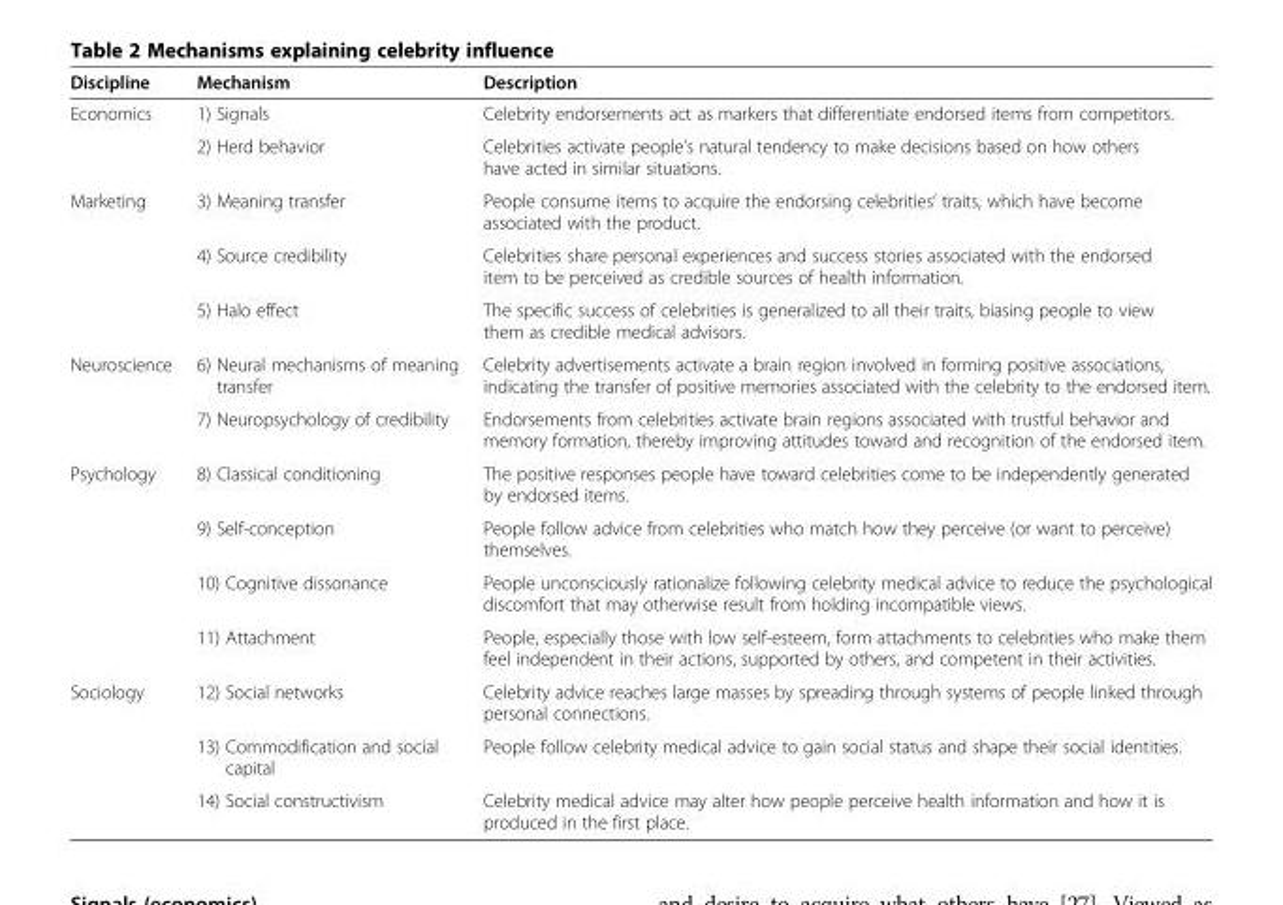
<table><thead><tr><td>Discipline</td><td>Mechanism</td><td>Description</td></tr></thead><tbody><tr><td rowspan="2">Economics</td><td>1) Signals</td><td>Celebrity endorsements act as markers that differentiate endorsed items from competitors.</td></tr><tr><td>2) Herd behavior</td><td>Celebrities activate people’s natural tendency to make decisions based on how others have acted in similar situations.</td></tr><tr><td rowspan="3">Marketing</td><td>3) Meaning transfer</td><td>People consume items to acquire the endorsing celebrities’ traits, which have become associated with the product.</td></tr><tr><td>4) Source credibility</td><td>Celebrities share personal experiences and success stories associated with the endorsed item to be perceived as credible sources of health information.</td></tr><tr><td>5) Halo effect</td><td>The specific success of celebrities is generalized to all their traits, biasing people to view them as credible medical advisors.</td></tr><tr><td rowspan="2">Neuroscience</td><td>6) Neural mechanisms of meaning transfer</td><td>Celebrity advertisements activate a brain region involved in forming positive associations, indicating the transfer of positive memories associated with the celebrity to the endorsed item.</td></tr><tr><td>7) Neuropsychology of credibility</td><td>Endorsements from celebrities activate brain regions associated with trustful behavior and memory formation, thereby improving attitudes toward and recognition of the endorsed item.</td></tr><tr><td rowspan="4">Psychology</td><td>8) Classical conditioning</td><td>The positive responses people have toward celebrities come to be independently generated by endorsed items.</td></tr><tr><td>9) Self-conception</td><td>People follow advice from celebrities who match how they perceive (or want to perceive) themselves.</td></tr><tr><td>10) Cognitive dissonance</td><td>People unconsciously rationalize following celebrity medical advice to reduce the psychological discomfort that may otherwise result from holding incompatible views.</td></tr><tr><td>11) Attachment</td><td>People, especially those with low self-esteem, form attachments to celebrities who make them feel independent in their actions, supported by others, and competent in their activities.</td></tr><tr><td rowspan="3">Sociology</td><td>12) Social networks</td><td>Celebrity advice reaches large masses by spreading through systems of people linked through personal connections.</td></tr><tr><td>13) Commodification and social capital</td><td>People follow celebrity medical advice to gain social status and shape their social identities.</td></tr><tr><td>14) Social constructivism</td><td>Celebrity medical advice may alter how people perceive health information and how it is produced in the first place.</td></tr></tbody></table>